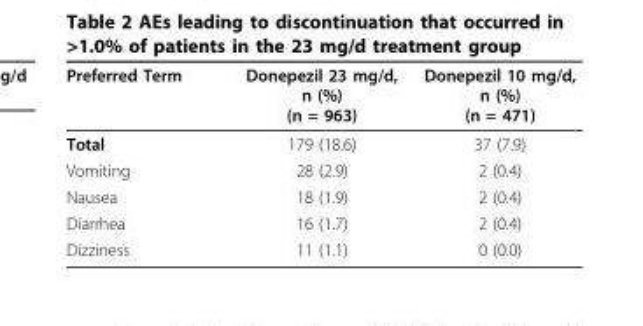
<table><thead><tr><td>Preferred Term</td><td>Donepezil 23 mg/d, n (%) (n = 963)</td><td>Donepezil 10 mg/d, n (%) (n = 471)</td></tr></thead><tbody><tr><td>Total</td><td>179 (18.6)</td><td>37 (7.9)</td></tr><tr><td>Vomiting</td><td>28 (2.9)</td><td>2 (0.4)</td></tr><tr><td>Nausea</td><td>18 (1.9)</td><td>2 (0.4)</td></tr><tr><td>Diarrhea</td><td>16 (1.7)</td><td>2 (0.4)</td></tr><tr><td>Dizziness</td><td>11 (1.1)</td><td>0 (0.0)</td></tr></tbody></table>